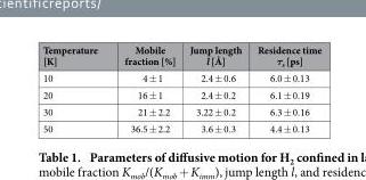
<table><thead><tr><td>Temperature [K]</td><td>Mobile fraction [%]</td><td>Jump length l [Å]</td><td>Residence time τ<sub>s</sub> [ps]</td></tr></thead><tbody><tr><td>10</td><td>4 ± 1</td><td>2.4 ± 0.6</td><td>6.0 ± 0.13</td></tr><tr><td>20</td><td>16 ± 1</td><td>2.4 ± 0.2</td><td>6.1 ± 0.19</td></tr><tr><td>30</td><td>21 ± 2.2</td><td>3.22 ± 0.2</td><td>6.3 ± 0.16</td></tr><tr><td>50</td><td>36.5 ± 2.2</td><td>3.6 ± 0.3</td><td>4.4 ± 0.13</td></tr></tbody></table>